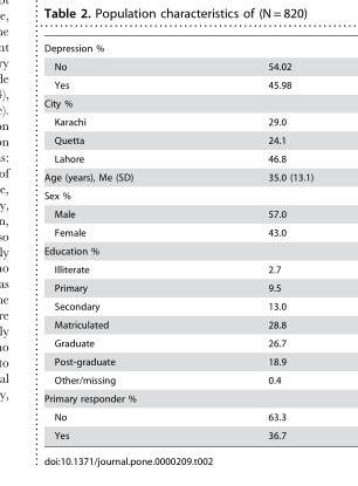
<table><tbody><tr><td colspan="2">Depression %</td></tr><tr><td>No</td><td>54.02</td></tr><tr><td>Yes</td><td>45.98</td></tr><tr><td colspan="2">City %</td></tr><tr><td>Karachi</td><td>29.0</td></tr><tr><td>Quetta</td><td>24.1</td></tr><tr><td>Lahore</td><td>46.8</td></tr><tr><td>Age (years), Me (SD)</td><td>35.0 (13.1)</td></tr><tr><td colspan="2">Sex %</td></tr><tr><td>Male</td><td>57.0</td></tr><tr><td>Female</td><td>43.0</td></tr><tr><td colspan="2">Education %</td></tr><tr><td>Illiterate</td><td>2.7</td></tr><tr><td>Primary</td><td>9.5</td></tr><tr><td>Secondary</td><td>13.0</td></tr><tr><td>Matriculated</td><td>28.8</td></tr><tr><td>Graduate</td><td>26.7</td></tr><tr><td>Post-graduate</td><td>18.9</td></tr><tr><td>Other/missing</td><td>0.4</td></tr><tr><td colspan="2">Primary responder %</td></tr><tr><td>No</td><td>63.3</td></tr><tr><td>Yes</td><td>36.7</td></tr></tbody></table>